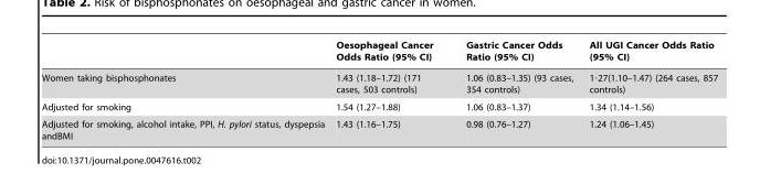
<table><thead><tr><td></td><td>Oesophageal Cancer Odds Ratio (95% CI)</td><td>Gastric Cancer Odds Ratio (95% CI)</td><td>All UGI Cancer Odds Ratio (95% CI)</td></tr></thead><tbody><tr><td>Women taking bisphosphonates</td><td>1.43 (1.18–1.72) (171 cases, 503 controls)</td><td>1.06 (0.83–1.35) (93 cases, 354 controls)</td><td>1·27(1.10–1.47) (264 cases, 857 controls)</td></tr><tr><td>Adjusted for smoking</td><td>1.54 (1.27–1.88)</td><td>1.06 (0.83–1.37)</td><td>1.34 (1.14–1.56)</td></tr><tr><td>Adjusted for smoking, alcohol intake, PPI, H. pylori status, dyspepsia andBMI</td><td>1.43 (1.16–1.75)</td><td>0.98 (0.76–1.27)</td><td>1.24 (1.06–1.45)</td></tr></tbody></table>